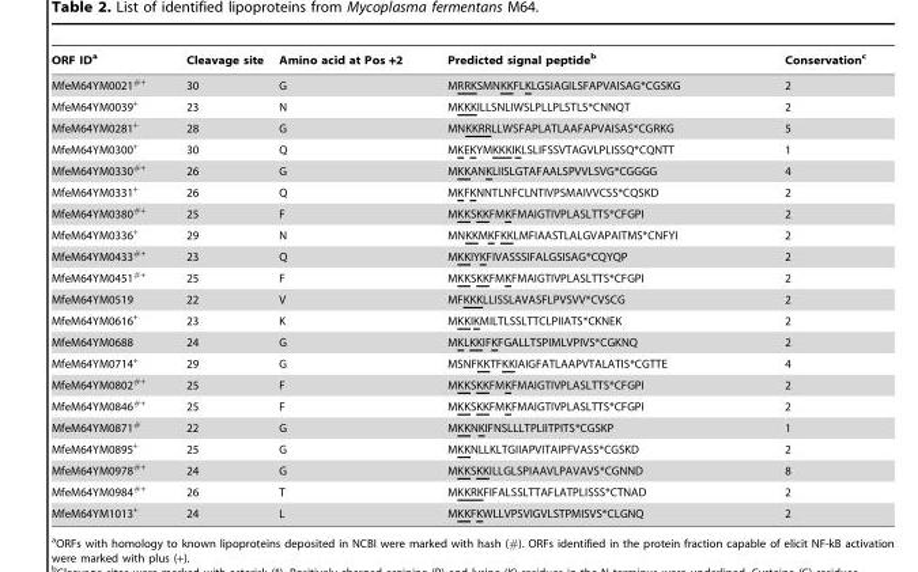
<table><thead><tr><td>ORF ID<sup>a</sup></td><td>Cleavage site</td><td>Amino acid at Pos +2</td><td>Predicted signal peptide<sup>b</sup></td><td>Conservation<sup>c</sup></td></tr></thead><tbody><tr><td>MfeM64YM0021<sup>#+</sup></td><td>30</td><td>G</td><td>MRRKSMNKKFLKLGSIAGILSFAPVAISAG*CGSKG</td><td>2</td></tr><tr><td>MfeM64YM0039<sup>+</sup></td><td>23</td><td>N</td><td>MKKKILLSNLIWSLPLLPLSTLS*CNNQT</td><td>2</td></tr><tr><td>MfeM64YM0281<sup>+</sup></td><td>28</td><td>G</td><td>MNKKRRLLWSFAPLATLAAFAPVAISAS*CGRKG</td><td>5</td></tr><tr><td>MfeM64YM0300<sup>+</sup></td><td>30</td><td>Q</td><td>MKEKYMKKKIKLSLIFSSVTAGVLPLISSQ*CQNTT</td><td>1</td></tr><tr><td>MfeM64YM0330<sup>#+</sup></td><td>26</td><td>G</td><td>MKKANKLIISLGTAFAALSPVVLSVG*CGGGG</td><td>4</td></tr><tr><td>MfeM64YM0331<sup>+</sup></td><td>26</td><td>Q</td><td>MKFKNNTLNFCLNTIVPSMAIVVCSS*CQSKD</td><td>2</td></tr><tr><td>MfeM64YM0380<sup>#+</sup></td><td>25</td><td>F</td><td>MKKSKKFMKFMAIGTIVPLASLTTS*CFGPI</td><td>2</td></tr><tr><td>MfeM64YM0336<sup>+</sup></td><td>29</td><td>N</td><td>MNKKMKFKKLMFIAASTLALGVAPAITMS*CNFYI</td><td>2</td></tr><tr><td>MfeM64YM0433<sup>#+</sup></td><td>23</td><td>Q</td><td>MKKIYKFIVASSSIFALGSISAG*CQYQP</td><td>2</td></tr><tr><td>MfeM64YM0451<sup>#+</sup></td><td>25</td><td>F</td><td>MKKSKKFMKFMAIGTIVPLASLTTS*CFGPI</td><td>2</td></tr><tr><td>MfeM64YM0519</td><td>22</td><td>V</td><td>MFKKKLLISSLAVASFLPVSVV*CVSCG</td><td>2</td></tr><tr><td>MfeM64YM0616<sup>+</sup></td><td>23</td><td>K</td><td>MKKIKMILTLSSLTTCLPIIATS*CKNEK</td><td>2</td></tr><tr><td>MfeM64YM0688</td><td>24</td><td>G</td><td>MKLKKIFKFGALLTSPIMLVPIVS*CGKNQ</td><td>2</td></tr><tr><td>MfeM64YM0714<sup>+</sup></td><td>29</td><td>G</td><td>MSNFKKTFKKIAIGFATLAAPVTALATIS*CGTTE</td><td>4</td></tr><tr><td>MfeM64YM0802<sup>#+</sup></td><td>25</td><td>F</td><td>MKKSKKFMKFMAIGTIVPLASLTTS*CFGPI</td><td>2</td></tr><tr><td>MfeM64YM0846<sup>#+</sup></td><td>25</td><td>F</td><td>MKKSKKFMKFMAIGTIVPLASLTTS*CFGPI</td><td>2</td></tr><tr><td>MfeM64YM0871<sup>#</sup></td><td>22</td><td>G</td><td>MKKNKIFNSLLLTPLIITPITS*CGSKP</td><td>1</td></tr><tr><td>MfeM64YM0895<sup>+</sup></td><td>25</td><td>G</td><td>MKKNLLKLTGIIAPVITAIPFVASS*CGSKD</td><td>2</td></tr><tr><td>MfeM64YM0978<sup>#+</sup></td><td>24</td><td>G</td><td>MKKSKKILLGLSPIAAVLPAVAVS*CGNND</td><td>8</td></tr><tr><td>MfeM64YM0984<sup>#+</sup></td><td>26</td><td>T</td><td>MKKRKFIFALSSLTTAFLATPLISSS*CTNAD</td><td>2</td></tr><tr><td>MfeM64YM1013<sup>+</sup></td><td>24</td><td>L</td><td>MKKFKWLLVPSVIGVLSTPMISVS*CLGNQ</td><td>2</td></tr></tbody></table>